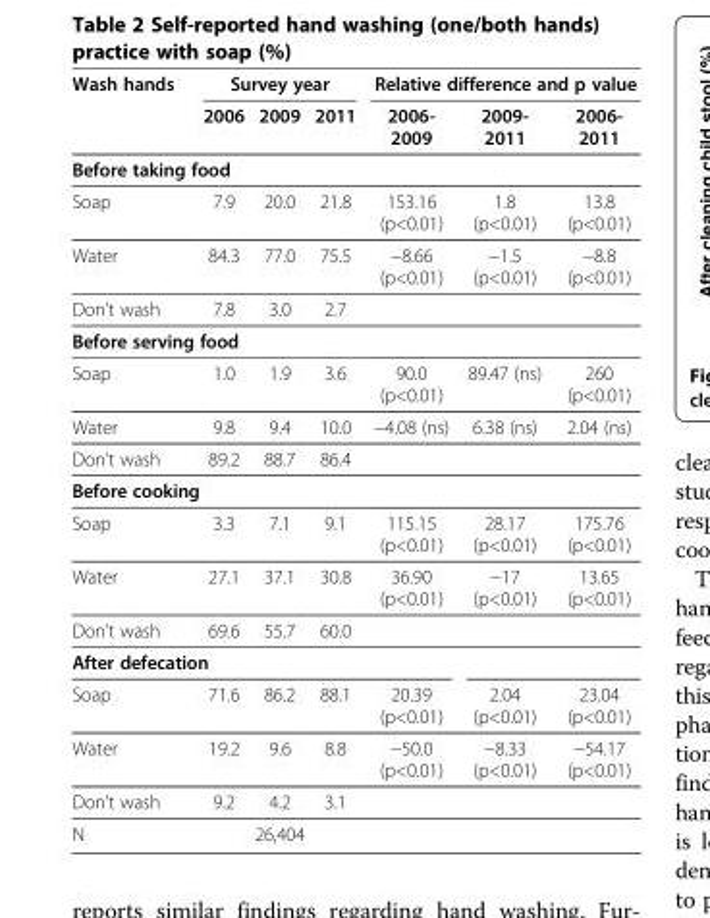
<table><thead><tr><td rowspan="2">Wash hands</td><td colspan="3">Survey year</td><td colspan="3">Relative difference and p value</td></tr><tr><td>2006</td><td>2009</td><td>2011</td><td>2006- 2009</td><td>2009- 2011</td><td>2006- 2011</td></tr></thead><tbody><tr><td colspan="7">Before taking food</td></tr><tr><td>Soap</td><td>7.9</td><td>20.0</td><td>21.8</td><td>153.16 (p&lt;0.01)</td><td>1.8 (p&lt;0.01)</td><td>13.8 (p&lt;0.01)</td></tr><tr><td>Water</td><td>84.3</td><td>77.0</td><td>75.5</td><td>−8.66 (p&lt;0.01)</td><td>−1.5 (p&lt;0.01)</td><td>−8.8 (p&lt;0.01)</td></tr><tr><td>Don’t wash</td><td>7.8</td><td>3.0</td><td>2.7</td><td></td><td></td><td></td></tr><tr><td colspan="7">Before serving food</td></tr><tr><td>Soap</td><td>1.0</td><td>1.9</td><td>3.6</td><td>90.0 (p&lt;0.01)</td><td>89.47 (ns)</td><td>260 (p&lt;0.01)</td></tr><tr><td>Water</td><td>9.8</td><td>9.4</td><td>10.0</td><td>−4.08 (ns)</td><td>6.38 (ns)</td><td>2.04 (ns)</td></tr><tr><td>Don’t wash</td><td>89.2</td><td>88.7</td><td>86.4</td><td></td><td></td><td></td></tr><tr><td colspan="7">Before cooking</td></tr><tr><td>Soap</td><td>3.3</td><td>7.1</td><td>9.1</td><td>115.15 (p&lt;0.01)</td><td>28.17 (p&lt;0.01)</td><td>175.76 (p&lt;0.01)</td></tr><tr><td>Water</td><td>27.1</td><td>37.1</td><td>30.8</td><td>36.90 (p&lt;0.01)</td><td>−17 (p&lt;0.01)</td><td>13.65 (p&lt;0.01)</td></tr><tr><td>Don’t wash</td><td>69.6</td><td>55.7</td><td>60.0</td><td></td><td></td><td></td></tr><tr><td colspan="7">After defecation</td></tr><tr><td>Soap</td><td>71.6</td><td>86.2</td><td>88.1</td><td>20.39 (p&lt;0.01)</td><td>2.04 (p&lt;0.01)</td><td>23.04 (p&lt;0.01)</td></tr><tr><td>Water</td><td>19.2</td><td>9.6</td><td>8.8</td><td>−50.0 (p&lt;0.01)</td><td>−8.33 (p&lt;0.01)</td><td>−54.17 (p&lt;0.01)</td></tr><tr><td>Don’t wash</td><td>9.2</td><td>4.2</td><td>3.1</td><td></td><td></td><td></td></tr><tr><td>N</td><td colspan="3">26,404</td><td></td><td></td><td></td></tr></tbody></table>